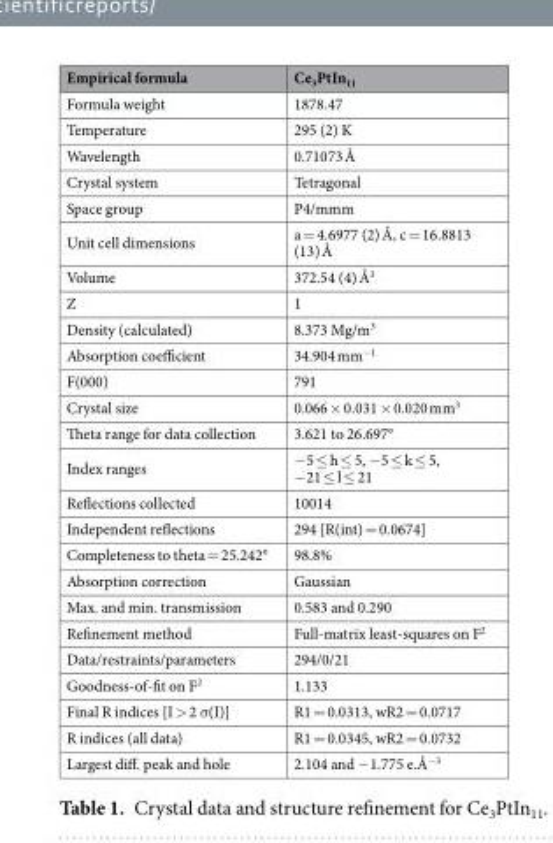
<table><thead><tr><td>Empirical formula</td><td>Ce<sub>3</sub>PtIn<sub>11</sub></td></tr></thead><tbody><tr><td>Formula weight</td><td>1878.47</td></tr><tr><td>Temperature</td><td>295 (2) K</td></tr><tr><td>Wavelength</td><td>0.71073 Å</td></tr><tr><td>Crystal system</td><td>Tetragonal</td></tr><tr><td>Space group</td><td>P4/mmm</td></tr><tr><td>Unit cell dimensions</td><td>a = 4.6977 (2) Å, c = 16.8813 (13) Å</td></tr><tr><td>Volume</td><td>372.54 (4) Å<sup>3</sup></td></tr><tr><td>Z</td><td>1</td></tr><tr><td>Density (calculated)</td><td>8.373 Mg/m<sup>3</sup></td></tr><tr><td>Absorption coefficient</td><td>34.904 mm<sup>−1</sup></td></tr><tr><td>F(000)</td><td>791</td></tr><tr><td>Crystal size</td><td>0.066 × 0.031 × 0.020 mm<sup>3</sup></td></tr><tr><td>Theta range for data collection</td><td>3.621 to 26.697°</td></tr><tr><td>Index ranges</td><td>−5 ≤ h ≤ 5, −5 ≤ k ≤ 5, −21 ≤ l ≤ 21</td></tr><tr><td>Reflections collected</td><td>10014</td></tr><tr><td>Independent reflections</td><td>294 [R(int) = 0.0674]</td></tr><tr><td>Completeness to theta = 25.242°</td><td>98.8%</td></tr><tr><td>Absorption correction</td><td>Gaussian</td></tr><tr><td>Max. and min. transmission</td><td>0.583 and 0.290</td></tr><tr><td>Refinement method</td><td>Full-matrix least-squares on F<sup>2</sup></td></tr><tr><td>Data/restraints/parameters</td><td>294/0/21</td></tr><tr><td>Goodness-of-fit on F<sup>2</sup></td><td>1.133</td></tr><tr><td>Final R indices [I &gt; 2 σ(I)]</td><td>R1 = 0.0313, wR2 = 0.0717</td></tr><tr><td>R indices (all data)</td><td>R1 = 0.0345, wR2 = 0.0732</td></tr><tr><td>Largest diff. peak and hole</td><td>2.104 and −1.775 e.Å<sup>−3</sup></td></tr></tbody></table>